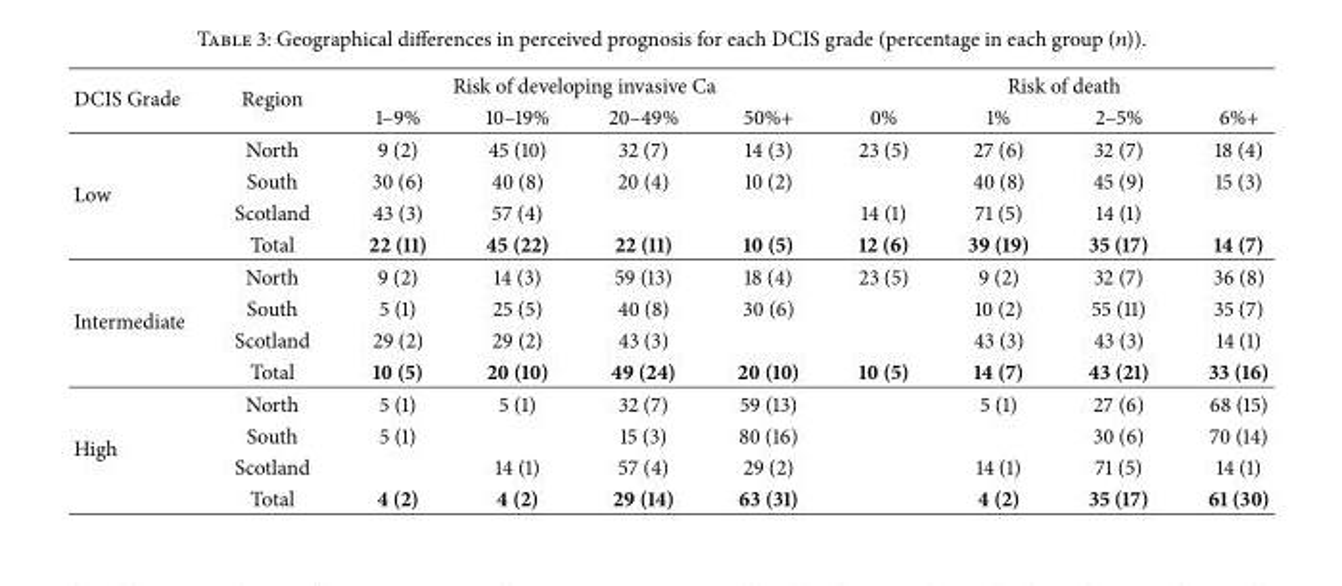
<table><thead><tr><td rowspan="2">DCIS Grade</td><td rowspan="2">Region</td><td colspan="4">Risk of developing invasive Ca</td><td colspan="4">Risk of death</td></tr><tr><td>1–9%</td><td>10–19%</td><td>20–49%</td><td>50%+</td><td>0%</td><td>1%</td><td>2–5%</td><td>6%+</td></tr></thead><tbody><tr><td rowspan="4">Low</td><td>North</td><td>9 (2)</td><td>45 (10)</td><td>32 (7)</td><td>14 (3)</td><td>23 (5)</td><td>27 (6)</td><td>32 (7)</td><td>18 (4)</td></tr><tr><td>South</td><td>30 (6)</td><td>40 (8)</td><td>20 (4)</td><td>10 (2)</td><td></td><td>40 (8)</td><td>45 (9)</td><td>15 (3)</td></tr><tr><td>Scotland</td><td>43 (3)</td><td>57 (4)</td><td></td><td></td><td>14 (1)</td><td>71 (5)</td><td>14 (1)</td><td></td></tr><tr><td>Total</td><td>22 (11)</td><td>45 (22)</td><td>22 (11)</td><td>10 (5)</td><td>12 (6)</td><td>39 (19)</td><td>35 (17)</td><td>14 (7)</td></tr><tr><td rowspan="4">Intermediate</td><td>North</td><td>9 (2)</td><td>14 (3)</td><td>59 (13)</td><td>18 (4)</td><td>23 (5)</td><td>9 (2)</td><td>32 (7)</td><td>36 (8)</td></tr><tr><td>South</td><td>5 (1)</td><td>25 (5)</td><td>40 (8)</td><td>30 (6)</td><td></td><td>10 (2)</td><td>55 (11)</td><td>35 (7)</td></tr><tr><td>Scotland</td><td>29 (2)</td><td>29 (2)</td><td>43 (3)</td><td></td><td></td><td>43 (3)</td><td>43 (3)</td><td>14 (1)</td></tr><tr><td>Total</td><td>10 (5)</td><td>20 (10)</td><td>49 (24)</td><td>20 (10)</td><td>10 (5)</td><td>14 (7)</td><td>43 (21)</td><td>33 (16)</td></tr><tr><td rowspan="4">High</td><td>North</td><td>5 (1)</td><td>5 (1)</td><td>32 (7)</td><td>59 (13)</td><td></td><td>5 (1)</td><td>27 (6)</td><td>68 (15)</td></tr><tr><td>South</td><td>5 (1)</td><td></td><td>15 (3)</td><td>80 (16)</td><td></td><td></td><td>30 (6)</td><td>70 (14)</td></tr><tr><td>Scotland</td><td></td><td>14 (1)</td><td>57 (4)</td><td>29 (2)</td><td></td><td>14 (1)</td><td>71 (5)</td><td>14 (1)</td></tr><tr><td>Total</td><td>4 (2)</td><td>4 (2)</td><td>29 (14)</td><td>63 (31)</td><td></td><td>4 (2)</td><td>35 (17)</td><td>61 (30)</td></tr></tbody></table>